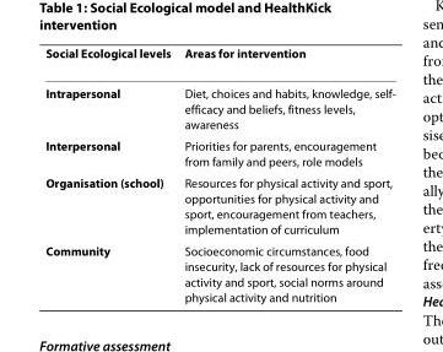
<table><thead><tr><td>Social Ecological levels</td><td>Areas for intervention</td></tr></thead><tbody><tr><td>Intrapersonal</td><td>Diet, choices and habits, knowledge, self- efficacy and beliefs, fitness levels, awareness</td></tr><tr><td>Interpersonal</td><td>Priorities for parents, encouragement from family and peers, role models</td></tr><tr><td>Organisation (school)</td><td>Resources for physical activity and sport, opportunities for physical activity and sport, encouragement from teachers, implementation of curriculum</td></tr><tr><td>Community</td><td>Socioeconomic circumstances, food insecurity, lack of resources for physical activity and sport, social norms around physical activity and nutrition</td></tr></tbody></table>